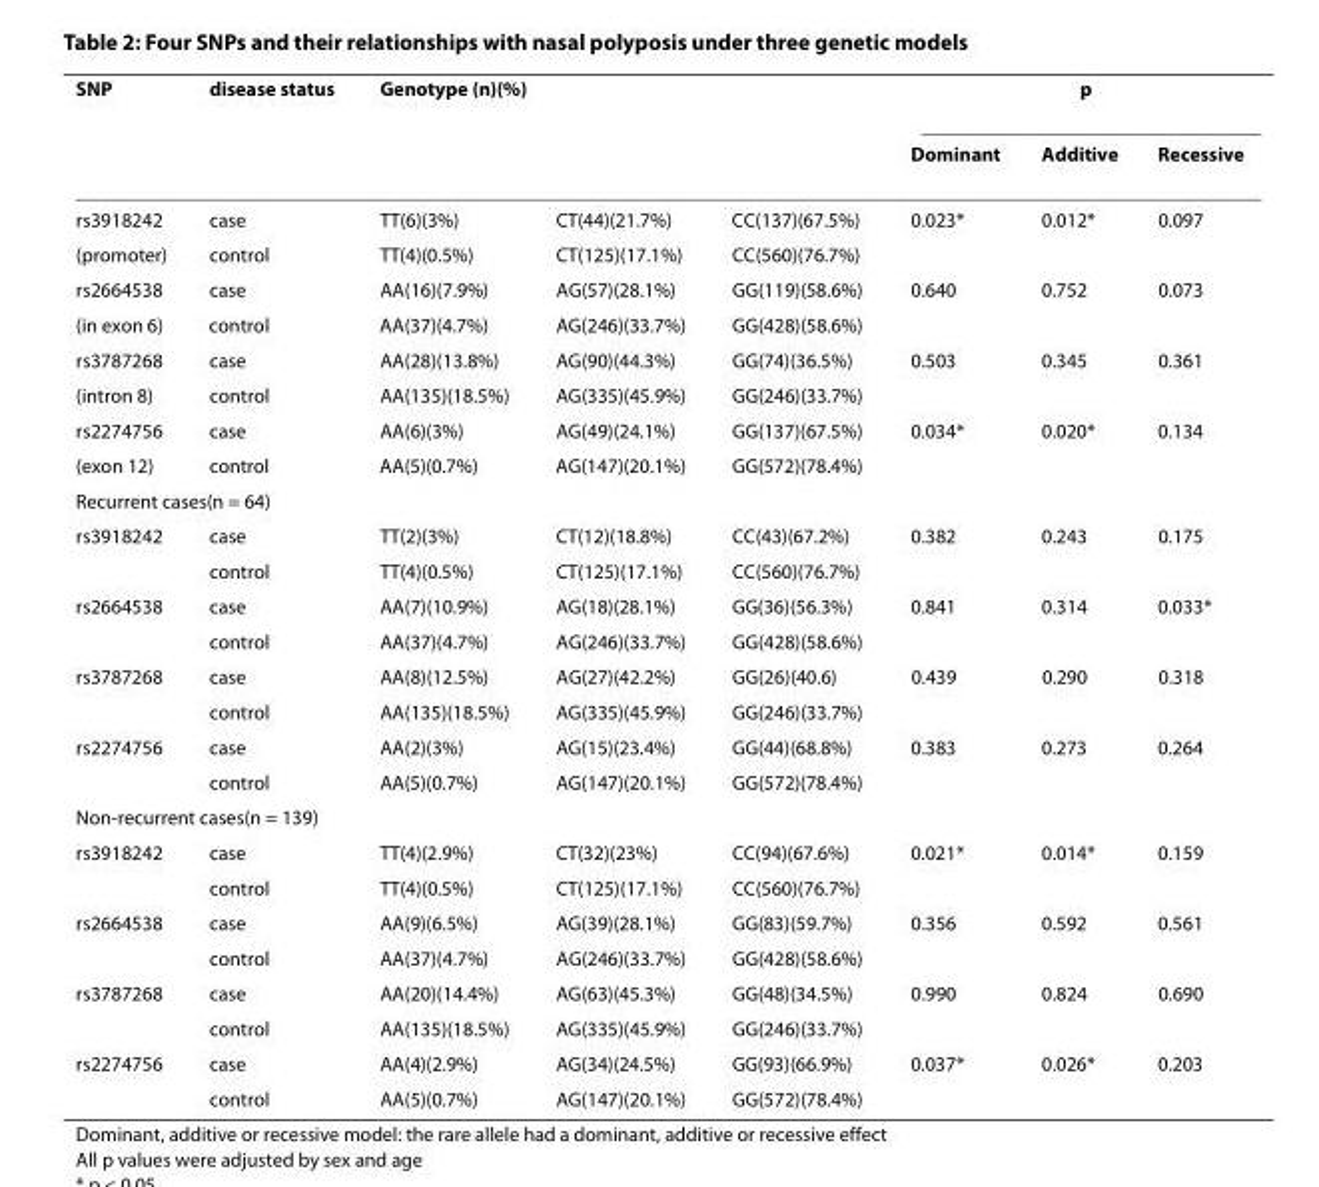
<table><thead><tr><td rowspan="2">SNP</td><td rowspan="2">disease status</td><td colspan="3">Genotype (n)(%)</td><td colspan="3">p</td></tr><tr><td></td><td></td><td></td><td>Dominant</td><td>Additive</td><td>Recessive</td></tr></thead><tbody><tr><td>rs3918242</td><td>case</td><td>TT(6)(3%)</td><td>CT(44)(21.7%)</td><td>CC(137)(67.5%)</td><td>0.023*</td><td>0.012*</td><td>0.097</td></tr><tr><td>(promoter)</td><td>control</td><td>TT(4)(0.5%)</td><td>CT(125)(17.1%)</td><td>CC(560)(76.7%)</td><td></td><td></td><td></td></tr><tr><td>rs2664538</td><td>case</td><td>AA(16)(7.9%)</td><td>AG(57)(28.1%)</td><td>GG(119)(58.6%)</td><td>0.640</td><td>0.752</td><td>0.073</td></tr><tr><td>(in exon 6)</td><td>control</td><td>AA(37)(4.7%)</td><td>AG(246)(33.7%)</td><td>GG(428)(58.6%)</td><td></td><td></td><td></td></tr><tr><td>rs3787268</td><td>case</td><td>AA(28)(13.8%)</td><td>AG(90)(44.3%)</td><td>GG(74)(36.5%)</td><td>0.503</td><td>0.345</td><td>0.361</td></tr><tr><td>(intron 8)</td><td>control</td><td>AA(135)(18.5%)</td><td>AG(335)(45.9%)</td><td>GG(246)(33.7%)</td><td></td><td></td><td></td></tr><tr><td>rs2274756</td><td>case</td><td>AA(6)(3%)</td><td>AG(49)(24.1%)</td><td>GG(137)(67.5%)</td><td>0.034*</td><td>0.020*</td><td>0.134</td></tr><tr><td>(exon 12)</td><td>control</td><td>AA(5)(0.7%)</td><td>AG(147)(20.1%)</td><td>GG(572)(78.4%)</td><td></td><td></td><td></td></tr><tr><td colspan="8">Recurrent cases(n = 64)</td></tr><tr><td rowspan="2">rs3918242</td><td>case</td><td>TT(2)(3%)</td><td>CT(12)(18.8%)</td><td>CC(43)(67.2%)</td><td>0.382</td><td>0.243</td><td>0.175</td></tr><tr><td>control</td><td>TT(4)(0.5%)</td><td>CT(125)(17.1%)</td><td>CC(560)(76.7%)</td><td></td><td></td><td></td></tr><tr><td rowspan="2">rs2664538</td><td>case</td><td>AA(7)(10.9%)</td><td>AG(18)(28.1%)</td><td>GG(36)(56.3%)</td><td>0.841</td><td>0.314</td><td>0.033*</td></tr><tr><td>control</td><td>AA(37)(4.7%)</td><td>AG(246)(33.7%)</td><td>GG(428)(58.6%)</td><td></td><td></td><td></td></tr><tr><td rowspan="2">rs3787268</td><td>case</td><td>AA(8)(12.5%)</td><td>AG(27)(42.2%)</td><td>GG(26)(40.6)</td><td>0.439</td><td>0.290</td><td>0.318</td></tr><tr><td>control</td><td>AA(135)(18.5%)</td><td>AG(335)(45.9%)</td><td>GG(246)(33.7%)</td><td></td><td></td><td></td></tr><tr><td rowspan="2">rs2274756</td><td>case</td><td>AA(2)(3%)</td><td>AG(15)(23.4%)</td><td>GG(44)(68.8%)</td><td>0.383</td><td>0.273</td><td>0.264</td></tr><tr><td>control</td><td>AA(5)(0.7%)</td><td>AG(147)(20.1%)</td><td>GG(572)(78.4%)</td><td></td><td></td><td></td></tr><tr><td colspan="8">Non-recurrent cases(n = 139)</td></tr><tr><td rowspan="2">rs3918242</td><td>case</td><td>TT(4)(2.9%)</td><td>CT(32)(23%)</td><td>CC(94)(67.6%)</td><td>0.021*</td><td>0.014*</td><td>0.159</td></tr><tr><td>control</td><td>TT(4)(0.5%)</td><td>CT(125)(17.1%)</td><td>CC(560)(76.7%)</td><td></td><td></td><td></td></tr><tr><td rowspan="2">rs2664538</td><td>case</td><td>AA(9)(6.5%)</td><td>AG(39)(28.1%)</td><td>GG(83)(59.7%)</td><td>0.356</td><td>0.592</td><td>0.561</td></tr><tr><td>control</td><td>AA(37)(4.7%)</td><td>AG(246)(33.7%)</td><td>GG(428)(58.6%)</td><td></td><td></td><td></td></tr><tr><td rowspan="2">rs3787268</td><td>case</td><td>AA(20)(14.4%)</td><td>AG(63)(45.3%)</td><td>GG(48)(34.5%)</td><td>0.990</td><td>0.824</td><td>0.690</td></tr><tr><td>control</td><td>AA(135)(18.5%)</td><td>AG(335)(45.9%)</td><td>GG(246)(33.7%)</td><td></td><td></td><td></td></tr><tr><td rowspan="2">rs2274756</td><td>case</td><td>AA(4)(2.9%)</td><td>AG(34)(24.5%)</td><td>GG(93)(66.9%)</td><td>0.037*</td><td>0.026*</td><td>0.203</td></tr><tr><td>control</td><td>AA(5)(0.7%)</td><td>AG(147)(20.1%)</td><td>GG(572)(78.4%)</td><td></td><td></td><td></td></tr></tbody></table>